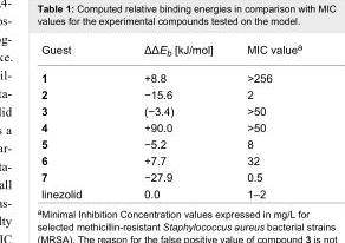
<table><tbody><tr><td>Guest</td><td>ΔΔE<sub>b</sub> [kJ/mol]</td><td>MIC value<sup>a</sup></td></tr><tr><td>1</td><td>+8.8</td><td>&gt;256</td></tr><tr><td>2</td><td>−15.6</td><td>2</td></tr><tr><td>3</td><td>(−3.4)</td><td>&gt;50</td></tr><tr><td>4</td><td>+90.0</td><td>&gt;50</td></tr><tr><td>5</td><td>−5.2</td><td>8</td></tr><tr><td>6</td><td>+7.7</td><td>32</td></tr><tr><td>7</td><td>−27.9</td><td>0.5</td></tr><tr><td>linezolid</td><td>0.0</td><td>1–2</td></tr></tbody></table>